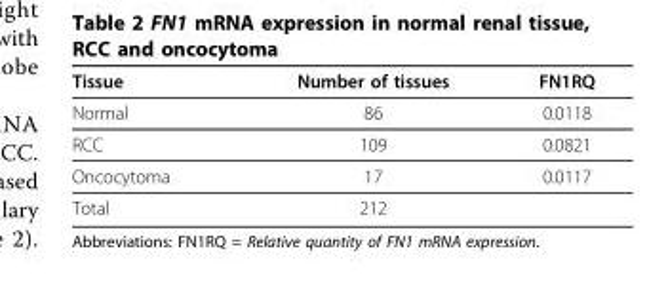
<table><thead><tr><td>Tissue</td><td>Number of tissues</td><td>FN1RQ</td></tr></thead><tbody><tr><td>Normal</td><td>86</td><td>0.0118</td></tr><tr><td>RCC</td><td>109</td><td>0.0821</td></tr><tr><td>Oncocytoma</td><td>17</td><td>0.0117</td></tr><tr><td>Total</td><td>212</td><td></td></tr></tbody></table>